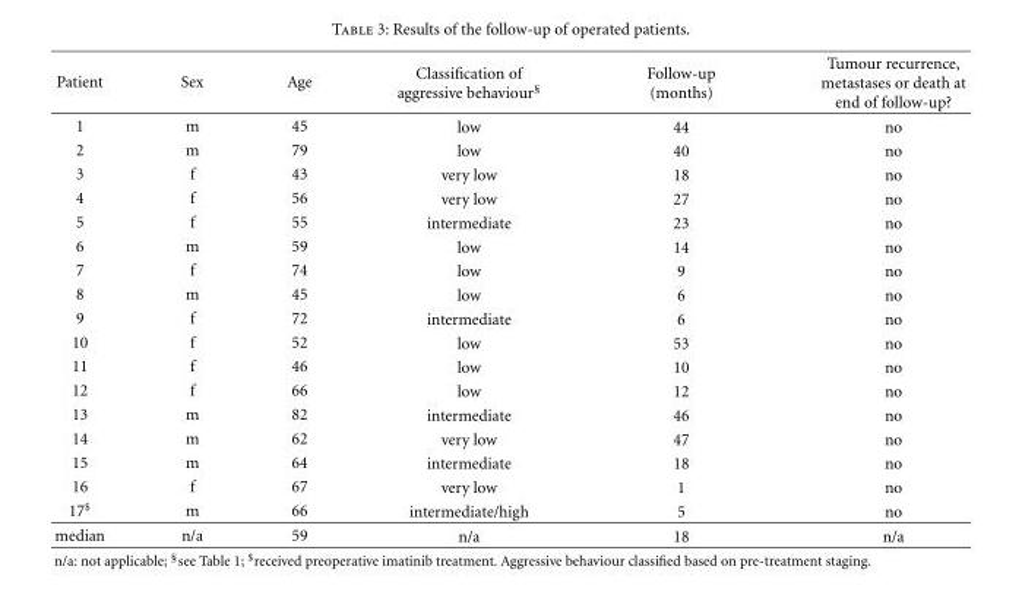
<table><thead><tr><td>Patient</td><td>Sex</td><td>Age</td><td>Classification of aggressive behaviour<sup>§</sup></td><td>Follow-up (months)</td><td>Tumour recurrence, metastases or death at end of follow-up?</td></tr></thead><tbody><tr><td>1</td><td>m</td><td>45</td><td>low</td><td>44</td><td>no</td></tr><tr><td>2</td><td>m</td><td>79</td><td>low</td><td>40</td><td>no</td></tr><tr><td>3</td><td>f</td><td>43</td><td>very low</td><td>18</td><td>no</td></tr><tr><td>4</td><td>f</td><td>56</td><td>very low</td><td>27</td><td>no</td></tr><tr><td>5</td><td>f</td><td>55</td><td>intermediate</td><td>23</td><td>no</td></tr><tr><td>6</td><td>m</td><td>59</td><td>low</td><td>14</td><td>no</td></tr><tr><td>7</td><td>f</td><td>74</td><td>low</td><td>9</td><td>no</td></tr><tr><td>8</td><td>m</td><td>45</td><td>low</td><td>6</td><td>no</td></tr><tr><td>9</td><td>f</td><td>72</td><td>intermediate</td><td>6</td><td>no</td></tr><tr><td>10</td><td>f</td><td>52</td><td>low</td><td>53</td><td>no</td></tr><tr><td>11</td><td>f</td><td>46</td><td>low</td><td>10</td><td>no</td></tr><tr><td>12</td><td>f</td><td>66</td><td>low</td><td>12</td><td>no</td></tr><tr><td>13</td><td>m</td><td>82</td><td>intermediate</td><td>46</td><td>no</td></tr><tr><td>14</td><td>m</td><td>62</td><td>very low</td><td>47</td><td>no</td></tr><tr><td>15</td><td>m</td><td>64</td><td>intermediate</td><td>18</td><td>no</td></tr><tr><td>16</td><td>f</td><td>67</td><td>very low</td><td>1</td><td>no</td></tr><tr><td>17<sup>$</sup></td><td>m</td><td>66</td><td>intermediate/high</td><td>5</td><td>no</td></tr><tr><td>median</td><td>n/a</td><td>59</td><td>n/a</td><td>18</td><td>n/a</td></tr></tbody></table>